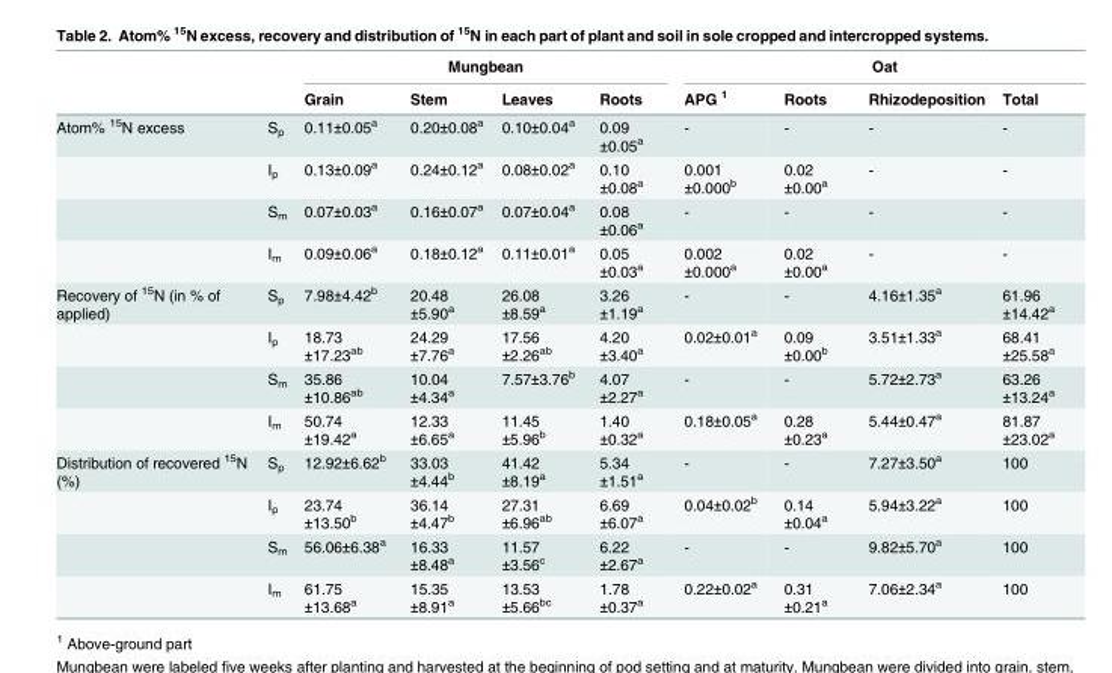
<table><thead><tr><td rowspan="2"></td><td rowspan="2"></td><td colspan="4">Mungbean</td><td colspan="4">Oat</td></tr><tr><td>Grain</td><td>Stem</td><td>Leaves</td><td>Roots</td><td>APG <sup>1</sup></td><td>Roots</td><td>Rhizodeposition</td><td>Total</td></tr></thead><tbody><tr><td rowspan="4">Atom% <sup>15</sup>N excess</td><td>S<sub>p</sub></td><td>0.11±0.05<sup>a</sup></td><td>0.20±0.08<sup>a</sup></td><td>0.10±0.04<sup>a</sup></td><td>0.09 ±0.05<sup>a</sup></td><td>-</td><td>-</td><td>-</td><td>-</td></tr><tr><td>I<sub>p</sub></td><td>0.13±0.09<sup>a</sup></td><td>0.24±0.12<sup>a</sup></td><td>0.08±0.02<sup>a</sup></td><td>0.10 ±0.08<sup>a</sup></td><td>0.001 ±0.000<sup>b</sup></td><td>0.02 ±0.00<sup>a</sup></td><td>-</td><td>-</td></tr><tr><td>S<sub>m</sub></td><td>0.07±0.03<sup>a</sup></td><td>0.16±0.07<sup>a</sup></td><td>0.07±0.04<sup>a</sup></td><td>0.08 ±0.06<sup>a</sup></td><td>-</td><td>-</td><td>-</td><td>-</td></tr><tr><td>I<sub>m</sub></td><td>0.09±0.06<sup>a</sup></td><td>0.18±0.12<sup>a</sup></td><td>0.11±0.01<sup>a</sup></td><td>0.05 ±0.03<sup>a</sup></td><td>0.002 ±0.000<sup>a</sup></td><td>0.02 ±0.00<sup>a</sup></td><td>-</td><td>-</td></tr><tr><td rowspan="4">Recovery of <sup>15</sup>N (in % of applied)</td><td>S<sub>p</sub></td><td>7.98±4.42<sup>b</sup></td><td>20.48 ±5.90<sup>a</sup></td><td>26.08 ±8.59<sup>a</sup></td><td>3.26 ±1.19<sup>a</sup></td><td>-</td><td>-</td><td>4.16±1.35<sup>a</sup></td><td>61.96 ±14.42<sup>a</sup></td></tr><tr><td>I<sub>p</sub></td><td>18.73 ±17.23<sup>ab</sup></td><td>24.29 ±7.76<sup>a</sup></td><td>17.56 ±2.26<sup>ab</sup></td><td>4.20 ±3.40<sup>a</sup></td><td>0.02±0.01<sup>a</sup></td><td>0.09 ±0.00<sup>b</sup></td><td>3.51±1.33<sup>a</sup></td><td>68.41 ±25.58<sup>a</sup></td></tr><tr><td>S<sub>m</sub></td><td>35.86 ±10.86<sup>ab</sup></td><td>10.04 ±4.34<sup>a</sup></td><td>7.57±3.76<sup>b</sup></td><td>4.07 ±2.27<sup>a</sup></td><td>-</td><td>-</td><td>5.72±2.73<sup>a</sup></td><td>63.26 ±13.24<sup>a</sup></td></tr><tr><td>I<sub>m</sub></td><td>50.74 ±19.42<sup>a</sup></td><td>12.33 ±6.65<sup>a</sup></td><td>11.45 ±5.96<sup>b</sup></td><td>1.40 ±0.32<sup>a</sup></td><td>0.18±0.05<sup>a</sup></td><td>0.28 ±0.23<sup>a</sup></td><td>5.44±0.47<sup>a</sup></td><td>81.87 ±23.02<sup>a</sup></td></tr><tr><td rowspan="4">Distribution of recovered <sup>15</sup>N (%)</td><td>S<sub>p</sub></td><td>12.92±6.62<sup>b</sup></td><td>33.03 ±4.44<sup>b</sup></td><td>41.42 ±8.19<sup>a</sup></td><td>5.34 ±1.51<sup>a</sup></td><td>-</td><td>-</td><td>7.27±3.50<sup>a</sup></td><td>100</td></tr><tr><td>I<sub>p</sub></td><td>23.74 ±13.50<sup>b</sup></td><td>36.14 ±4.47<sup>b</sup></td><td>27.31 ±6.96<sup>ab</sup></td><td>6.69 ±6.07<sup>a</sup></td><td>0.04±0.02<sup>b</sup></td><td>0.14 ±0.04<sup>a</sup></td><td>5.94±3.22<sup>a</sup></td><td>100</td></tr><tr><td>S<sub>m</sub></td><td>56.06±6.38<sup>a</sup></td><td>16.33 ±8.48<sup>a</sup></td><td>11.57 ±3.56<sup>c</sup></td><td>6.22 ±2.67<sup>a</sup></td><td>-</td><td>-</td><td>9.82±5.70<sup>a</sup></td><td>100</td></tr><tr><td>I<sub>m</sub></td><td>61.75 ±13.68<sup>a</sup></td><td>15.35 ±8.91<sup>a</sup></td><td>13.53 ±5.66<sup>bc</sup></td><td>1.78 ±0.37<sup>a</sup></td><td>0.22±0.02<sup>a</sup></td><td>0.31 ±0.21<sup>a</sup></td><td>7.06±2.34<sup>a</sup></td><td>100</td></tr></tbody></table>